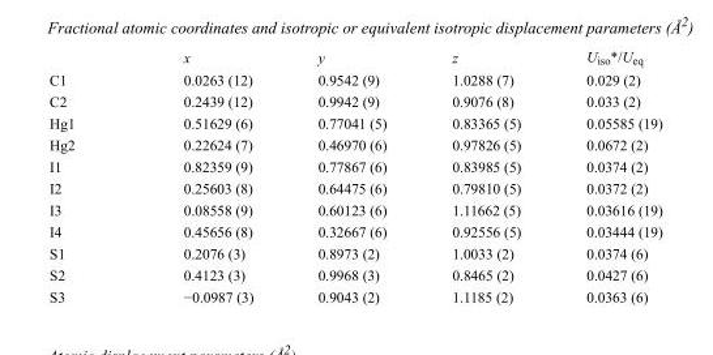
<table><thead><tr><td></td><td>x</td><td>y</td><td>z</td><td>U<sub>iso</sub>*/U<sub>eq</sub></td></tr></thead><tbody><tr><td>C1</td><td>0.0263 (12)</td><td>0.9542 (9)</td><td>1.0288 (7)</td><td>0.029 (2)</td></tr><tr><td>C2</td><td>0.2439 (12)</td><td>0.9942 (9)</td><td>0.9076 (8)</td><td>0.033 (2)</td></tr><tr><td>Hg1</td><td>0.51629 (6)</td><td>0.77041 (5)</td><td>0.83365 (5)</td><td>0.05585 (19)</td></tr><tr><td>Hg2</td><td>0.22624 (7)</td><td>0.46970 (6)</td><td>0.97826 (5)</td><td>0.0672 (2)</td></tr><tr><td>I1</td><td>0.82359 (9)</td><td>0.77867 (6)</td><td>0.83985 (5)</td><td>0.0374 (2)</td></tr><tr><td>I2</td><td>0.25603 (8)</td><td>0.64475 (6)</td><td>0.79810 (5)</td><td>0.0372 (2)</td></tr><tr><td>I3</td><td>0.08558 (9)</td><td>0.60123 (6)</td><td>1.11662 (5)</td><td>0.03616 (19)</td></tr><tr><td>I4</td><td>0.45656 (8)</td><td>0.32667 (6)</td><td>0.92556 (5)</td><td>0.03444 (19)</td></tr><tr><td>S1</td><td>0.2076 (3)</td><td>0.8973 (2)</td><td>1.0033 (2)</td><td>0.0374 (6)</td></tr><tr><td>S2</td><td>0.4123 (3)</td><td>0.9968 (3)</td><td>0.8465 (2)</td><td>0.0427 (6)</td></tr><tr><td>S3</td><td>−0.0987 (3)</td><td>0.9043 (2)</td><td>1.1185 (2)</td><td>0.0363 (6)</td></tr></tbody></table>